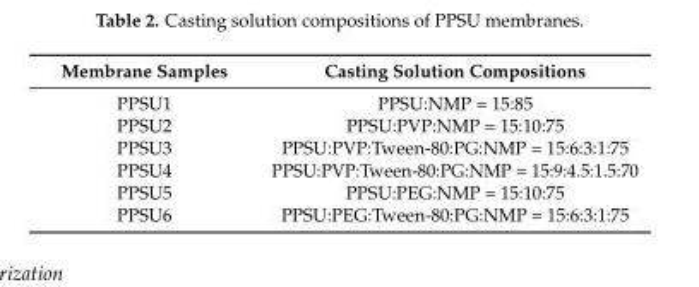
<table><thead><tr><td>Membrane Samples</td><td>Casting Solution Compositions</td></tr></thead><tbody><tr><td>PPSU1</td><td>PPSU:NMP = 15:85</td></tr><tr><td>PPSU2</td><td>PPSU:PVP:NMP = 15:10:75</td></tr><tr><td>PPSU3</td><td>PPSU:PVP:Tween-80:PG:NMP = 15:6:3:1:75</td></tr><tr><td>PPSU4</td><td>PPSU:PVP:Tween-80:PG:NMP = 15:9:4.5:1.5:70</td></tr><tr><td>PPSU5</td><td>PPSU:PEG:NMP = 15:10:75</td></tr><tr><td>PPSU6</td><td>PPSU:PEG:Tween-80:PG:NMP = 15:6:3:1:75</td></tr></tbody></table>